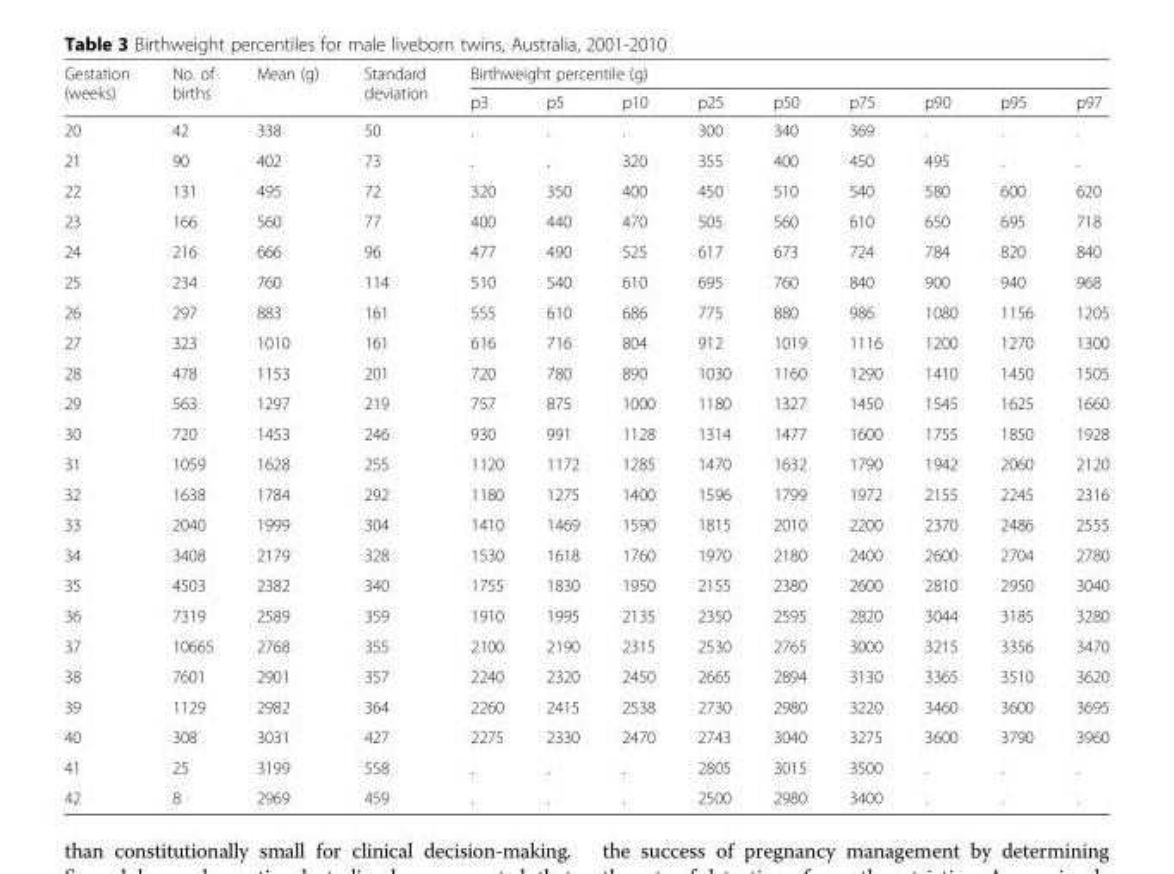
<table><thead><tr><td rowspan="2">Gestation (weeks)</td><td rowspan="2">No. of births</td><td rowspan="2">Mean (g)</td><td rowspan="2">Standard deviation</td><td colspan="9">Birthweight percentile (g)</td></tr><tr><td>p3</td><td>p5</td><td>p10</td><td>p25</td><td>p50</td><td>p75</td><td>p90</td><td>p95</td><td>p97</td></tr></thead><tbody><tr><td>20</td><td>42</td><td>338</td><td>50</td><td>.</td><td>.</td><td>.</td><td>300</td><td>340</td><td>369</td><td>.</td><td>.</td><td>.</td></tr><tr><td>21</td><td>90</td><td>402</td><td>73</td><td>.</td><td>.</td><td>320</td><td>355</td><td>400</td><td>450</td><td>495</td><td>.</td><td>.</td></tr><tr><td>22</td><td>131</td><td>495</td><td>72</td><td>320</td><td>350</td><td>400</td><td>450</td><td>510</td><td>540</td><td>580</td><td>600</td><td>620</td></tr><tr><td>23</td><td>166</td><td>560</td><td>77</td><td>400</td><td>440</td><td>470</td><td>505</td><td>560</td><td>610</td><td>650</td><td>695</td><td>718</td></tr><tr><td>24</td><td>216</td><td>666</td><td>96</td><td>477</td><td>490</td><td>525</td><td>617</td><td>673</td><td>724</td><td>784</td><td>820</td><td>840</td></tr><tr><td>25</td><td>234</td><td>760</td><td>114</td><td>510</td><td>540</td><td>610</td><td>695</td><td>760</td><td>840</td><td>900</td><td>940</td><td>968</td></tr><tr><td>26</td><td>297</td><td>883</td><td>161</td><td>555</td><td>610</td><td>686</td><td>775</td><td>880</td><td>986</td><td>1080</td><td>1156</td><td>1205</td></tr><tr><td>27</td><td>323</td><td>1010</td><td>161</td><td>616</td><td>716</td><td>804</td><td>912</td><td>1019</td><td>1116</td><td>1200</td><td>1270</td><td>1300</td></tr><tr><td>28</td><td>478</td><td>1153</td><td>201</td><td>720</td><td>780</td><td>890</td><td>1030</td><td>1160</td><td>1290</td><td>1410</td><td>1450</td><td>1505</td></tr><tr><td>29</td><td>563</td><td>1297</td><td>219</td><td>757</td><td>875</td><td>1000</td><td>1180</td><td>1327</td><td>1450</td><td>1545</td><td>1625</td><td>1660</td></tr><tr><td>30</td><td>720</td><td>1453</td><td>246</td><td>930</td><td>991</td><td>1128</td><td>1314</td><td>1477</td><td>1600</td><td>1755</td><td>1850</td><td>1928</td></tr><tr><td>31</td><td>1059</td><td>1628</td><td>255</td><td>1120</td><td>1172</td><td>1285</td><td>1470</td><td>1632</td><td>1790</td><td>1942</td><td>2060</td><td>2120</td></tr><tr><td>32</td><td>1638</td><td>1784</td><td>292</td><td>1180</td><td>1275</td><td>1400</td><td>1596</td><td>1799</td><td>1972</td><td>2155</td><td>2245</td><td>2316</td></tr><tr><td>33</td><td>2040</td><td>1999</td><td>304</td><td>1410</td><td>1469</td><td>1590</td><td>1815</td><td>2010</td><td>2200</td><td>2370</td><td>2486</td><td>2555</td></tr><tr><td>34</td><td>3408</td><td>2179</td><td>328</td><td>1530</td><td>1618</td><td>1760</td><td>1970</td><td>2180</td><td>2400</td><td>2600</td><td>2704</td><td>2780</td></tr><tr><td>35</td><td>4503</td><td>2382</td><td>340</td><td>1755</td><td>1830</td><td>1950</td><td>2155</td><td>2380</td><td>2600</td><td>2810</td><td>2950</td><td>3040</td></tr><tr><td>36</td><td>7319</td><td>2589</td><td>359</td><td>1910</td><td>1995</td><td>2135</td><td>2350</td><td>2595</td><td>2820</td><td>3044</td><td>3185</td><td>3280</td></tr><tr><td>37</td><td>10665</td><td>2768</td><td>355</td><td>2100</td><td>2190</td><td>2315</td><td>2530</td><td>2765</td><td>3000</td><td>3215</td><td>3356</td><td>3470</td></tr><tr><td>38</td><td>7601</td><td>2901</td><td>357</td><td>2240</td><td>2320</td><td>2450</td><td>2665</td><td>2894</td><td>3130</td><td>3365</td><td>3510</td><td>3620</td></tr><tr><td>39</td><td>1129</td><td>2982</td><td>364</td><td>2260</td><td>2415</td><td>2538</td><td>2730</td><td>2980</td><td>3220</td><td>3460</td><td>3600</td><td>3695</td></tr><tr><td>40</td><td>308</td><td>3031</td><td>427</td><td>2275</td><td>2330</td><td>2470</td><td>2743</td><td>3040</td><td>3275</td><td>3600</td><td>3790</td><td>3960</td></tr><tr><td>41</td><td>25</td><td>3199</td><td>558</td><td>.</td><td>.</td><td>.</td><td>2805</td><td>3015</td><td>3500</td><td>.</td><td>.</td><td>.</td></tr><tr><td>42</td><td>8</td><td>2969</td><td>459</td><td>.</td><td>.</td><td>.</td><td>2500</td><td>2980</td><td>3400</td><td>.</td><td>.</td><td>.</td></tr></tbody></table>